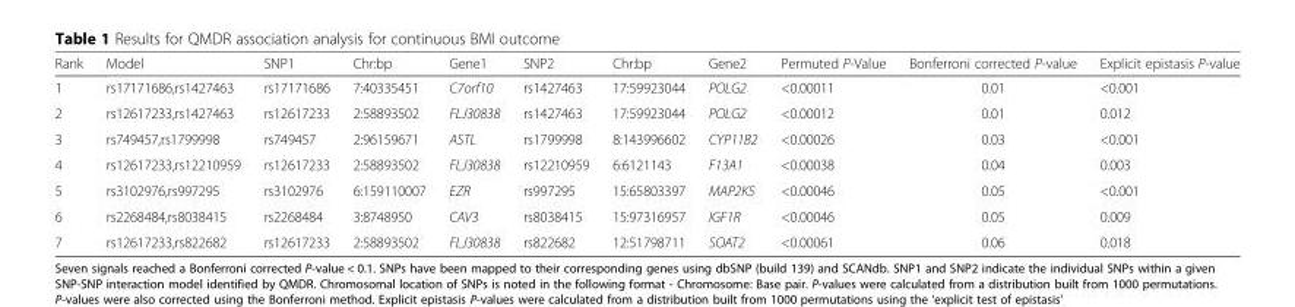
<table><thead><tr><td>Rank</td><td>Model</td><td>SNP1</td><td>Chr:bp</td><td>Gene1</td><td>SNP2</td><td>Chr:bp</td><td>Gene2</td><td>Permuted P-Value</td><td>Bonferroni corrected P-value</td><td>Explicit epistasis P-value</td></tr></thead><tbody><tr><td>1</td><td>rs17171686,rs1427463</td><td>rs17171686</td><td>7:40335451</td><td>C7orf10</td><td>rs1427463</td><td>17:59923044</td><td>POLG2</td><td>&lt;0.00011</td><td>0.01</td><td>&lt;0.001</td></tr><tr><td>2</td><td>rs12617233,rs1427463</td><td>rs12617233</td><td>2:58893502</td><td>FLJ30838</td><td>rs1427463</td><td>17:59923044</td><td>POLG2</td><td>&lt;0.00012</td><td>0.01</td><td>0.012</td></tr><tr><td>3</td><td>rs749457,rs1799998</td><td>rs749457</td><td>2:96159671</td><td>ASTL</td><td>rs1799998</td><td>8:143996602</td><td>CYP11B2</td><td>&lt;0.00026</td><td>0.03</td><td>&lt;0.001</td></tr><tr><td>4</td><td>rs12617233,rs12210959</td><td>rs12617233</td><td>2:58893502</td><td>FLJ30838</td><td>rs12210959</td><td>6:6121143</td><td>F13A1</td><td>&lt;0.00038</td><td>0.04</td><td>0.003</td></tr><tr><td>5</td><td>rs3102976,rs997295</td><td>rs3102976</td><td>6:159110007</td><td>EZR</td><td>rs997295</td><td>15:65803397</td><td>MAP2K5</td><td>&lt;0.00046</td><td>0.05</td><td>&lt;0.001</td></tr><tr><td>6</td><td>rs2268484,rs8038415</td><td>rs2268484</td><td>3:8748950</td><td>CAV3</td><td>rs8038415</td><td>15:97316957</td><td>IGF1R</td><td>&lt;0.00046</td><td>0.05</td><td>0.009</td></tr><tr><td>7</td><td>rs12617233,rs822682</td><td>rs12617233</td><td>2:58893502</td><td>FLJ30838</td><td>rs822682</td><td>12:51798711</td><td>SOAT2</td><td>&lt;0.00061</td><td>0.06</td><td>0.018</td></tr></tbody></table>